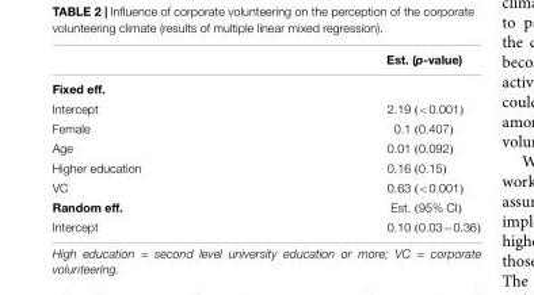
<table><thead><tr><td></td><td>Est. (p-value)</td></tr></thead><tbody><tr><td colspan="2">Fixed eff.</td></tr><tr><td>Intercept</td><td>2.19 (&lt;0.001)</td></tr><tr><td>Female</td><td>0.1 (0.407)</td></tr><tr><td>Age</td><td>0.01 (0.092)</td></tr><tr><td>Higher education</td><td>0.16 (0.15)</td></tr><tr><td>VC</td><td>0.63 (&lt;0.001)</td></tr><tr><td>Random eff.</td><td>Est. (95% CI)</td></tr><tr><td>Intercept</td><td>0.10 (0.03−0.36)</td></tr></tbody></table>